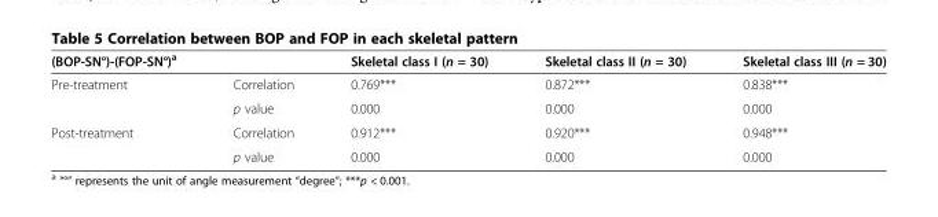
<table><thead><tr><td>(BOP-SN°)-(FOP-SN°)<sup>a</sup></td><td></td><td>Skeletal class I (n = 30)</td><td>Skeletal class II (n = 30)</td><td>Skeletal class III (n = 30)</td></tr></thead><tbody><tr><td rowspan="2">Pre-treatment</td><td>Correlation</td><td>0.769***</td><td>0.872***</td><td>0.838***</td></tr><tr><td>p value</td><td>0.000</td><td>0.000</td><td>0.000</td></tr><tr><td rowspan="2">Post-treatment</td><td>Correlation</td><td>0.912***</td><td>0.920***</td><td>0.948***</td></tr><tr><td>p value</td><td>0.000</td><td>0.000</td><td>0.000</td></tr></tbody></table>